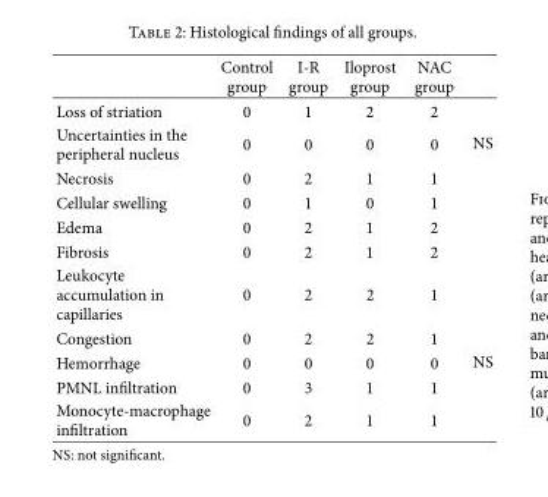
<table><thead><tr><td></td><td>Control group</td><td>I-R group</td><td>Iloprost group</td><td>NAC group</td><td></td></tr></thead><tbody><tr><td>Loss of striation</td><td>0</td><td>1</td><td>2</td><td>2</td><td></td></tr><tr><td>Uncertainties in the peripheral nucleus</td><td>0</td><td>0</td><td>0</td><td>0</td><td>NS</td></tr><tr><td>Necrosis</td><td>0</td><td>2</td><td>1</td><td>1</td><td></td></tr><tr><td>Cellular swelling</td><td>0</td><td>1</td><td>0</td><td>1</td><td></td></tr><tr><td>Edema</td><td>0</td><td>2</td><td>1</td><td>2</td><td></td></tr><tr><td>Fibrosis</td><td>0</td><td>2</td><td>1</td><td>2</td><td></td></tr><tr><td>Leukocyte accumulation in capillaries</td><td>0</td><td>2</td><td>2</td><td>1</td><td></td></tr><tr><td>Congestion</td><td>0</td><td>2</td><td>2</td><td>1</td><td></td></tr><tr><td>Hemorrhage</td><td>0</td><td>0</td><td>0</td><td>0</td><td>NS</td></tr><tr><td>PMNL infiltration</td><td>0</td><td>3</td><td>1</td><td>1</td><td></td></tr><tr><td>Monocyte-macrophage infiltration</td><td>0</td><td>2</td><td>1</td><td>1</td><td></td></tr></tbody></table>